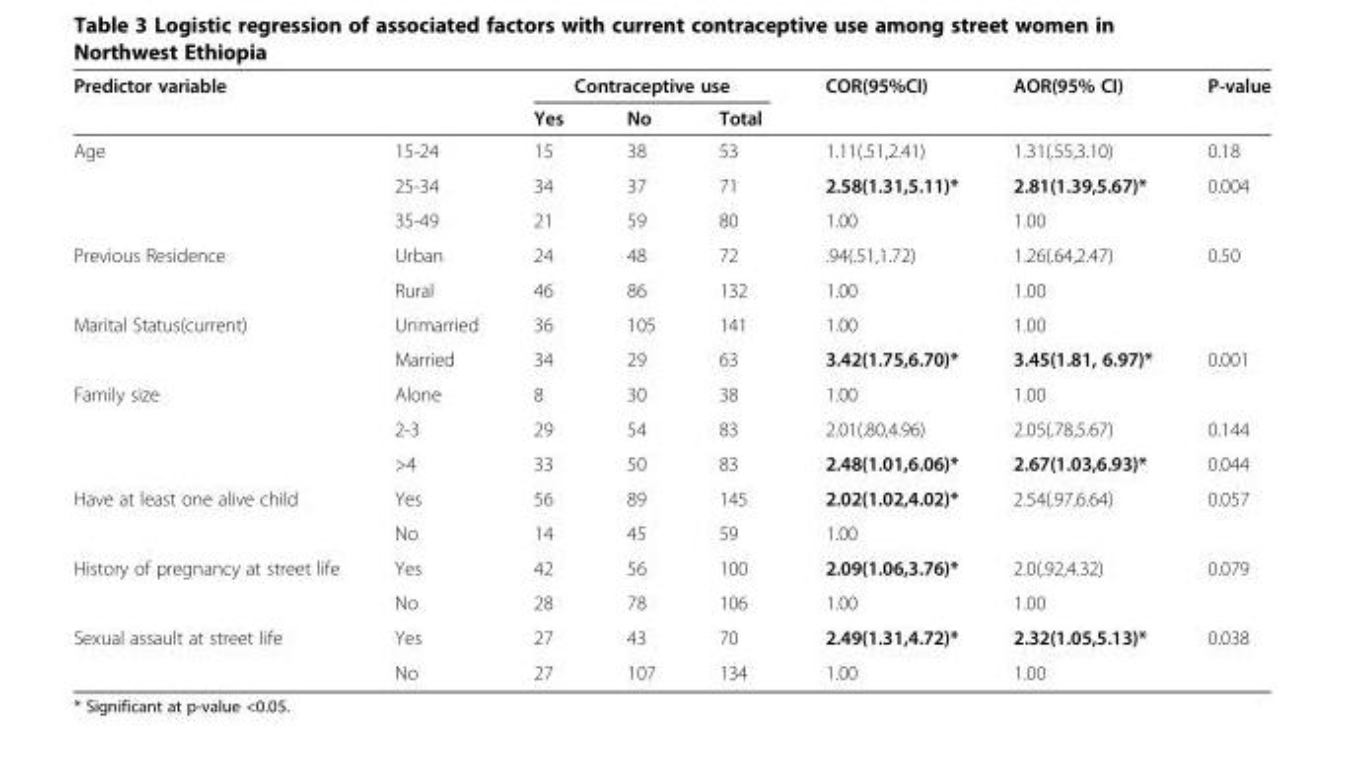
<table><thead><tr><td colspan="2">Predictor variable</td><td colspan="3">Contraceptive use</td><td rowspan="2">COR(95%CI)</td><td rowspan="2">AOR(95% CI)</td><td rowspan="2">P-value</td></tr><tr><td></td><td></td><td>Yes</td><td>No</td><td>Total</td></tr></thead><tbody><tr><td rowspan="3">Age</td><td>15-24</td><td>15</td><td>38</td><td>53</td><td>1.11(.51,2.41)</td><td>1.31(.55,3.10)</td><td>0.18</td></tr><tr><td>25-34</td><td>34</td><td>37</td><td>71</td><td>2.58(1.31,5.11)*</td><td>2.81(1.39,5.67)*</td><td>0.004</td></tr><tr><td>35-49</td><td>21</td><td>59</td><td>80</td><td>1.00</td><td>1.00</td><td></td></tr><tr><td rowspan="2">Previous Residence</td><td>Urban</td><td>24</td><td>48</td><td>72</td><td>.94(.51,1.72)</td><td>1.26(.64,2.47)</td><td>0.50</td></tr><tr><td>Rural</td><td>46</td><td>86</td><td>132</td><td>1.00</td><td>1.00</td><td></td></tr><tr><td rowspan="2">Marital Status(current)</td><td>Unmarried</td><td>36</td><td>105</td><td>141</td><td>1.00</td><td>1.00</td><td></td></tr><tr><td>Married</td><td>34</td><td>29</td><td>63</td><td>3.42(1.75,6.70)*</td><td>3.45(1.81, 6.97)*</td><td>0.001</td></tr><tr><td rowspan="3">Family size</td><td>Alone</td><td>8</td><td>30</td><td>38</td><td>1.00</td><td>1.00</td><td></td></tr><tr><td>2-3</td><td>29</td><td>54</td><td>83</td><td>2.01(.80,4.96)</td><td>2.05(.78,5.67)</td><td>0.144</td></tr><tr><td>&gt;4</td><td>33</td><td>50</td><td>83</td><td>2.48(1.01,6.06)*</td><td>2.67(1.03,6.93)*</td><td>0.044</td></tr><tr><td rowspan="2">Have at least one alive child</td><td>Yes</td><td>56</td><td>89</td><td>145</td><td>2.02(1.02,4.02)*</td><td>2.54(.97,6.64)</td><td>0.057</td></tr><tr><td>No</td><td>14</td><td>45</td><td>59</td><td>1.00</td><td></td><td></td></tr><tr><td rowspan="2">History of pregnancy at street life</td><td>Yes</td><td>42</td><td>56</td><td>100</td><td>2.09(1.06,3.76)*</td><td>2.0(.92,4.32)</td><td>0.079</td></tr><tr><td>No</td><td>28</td><td>78</td><td>106</td><td>1.00</td><td>1.00</td><td></td></tr><tr><td rowspan="2">Sexual assault at street life</td><td>Yes</td><td>27</td><td>43</td><td>70</td><td>2.49(1.31,4.72)*</td><td>2.32(1.05,5.13)*</td><td>0.038</td></tr><tr><td>No</td><td>27</td><td>107</td><td>134</td><td>1.00</td><td>1.00</td><td></td></tr></tbody></table>